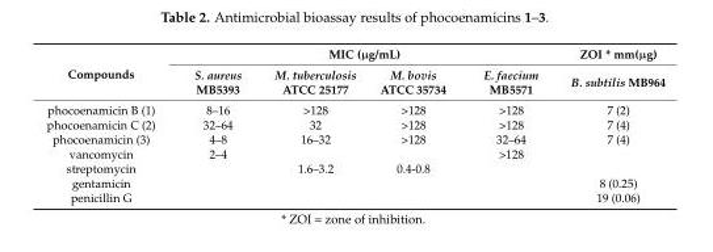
<table><thead><tr><td rowspan="2">Compounds</td><td colspan="4">MIC (µg/mL)</td><td rowspan="2">ZOI * mm(µg) B. subtilis MB964</td></tr><tr><td>S. aureus MB5393</td><td>M. tuberculosis ATCC 25177</td><td>M. bovis ATCC 35734</td><td>E. faecium MB5571</td></tr></thead><tbody><tr><td>phocoenamicin B (1)</td><td>8–16</td><td>&gt;128</td><td>&gt;128</td><td>&gt;128</td><td>7 (2)</td></tr><tr><td>phocoenamicin C (2)</td><td>32–64</td><td>32</td><td>&gt;128</td><td>&gt;128</td><td>7 (4)</td></tr><tr><td>phocoenamicin (3)</td><td>4–8</td><td>16–32</td><td>&gt;128</td><td>32–64</td><td>7 (4)</td></tr><tr><td>vancomycin</td><td>2–4</td><td></td><td></td><td>&gt;128</td><td></td></tr><tr><td>streptomycin</td><td></td><td>1.6–3.2</td><td>0.4-0.8</td><td></td><td></td></tr><tr><td>gentamicin</td><td></td><td></td><td></td><td></td><td>8 (0.25)</td></tr><tr><td>penicillin G</td><td></td><td></td><td></td><td></td><td>19 (0.06)</td></tr></tbody></table>